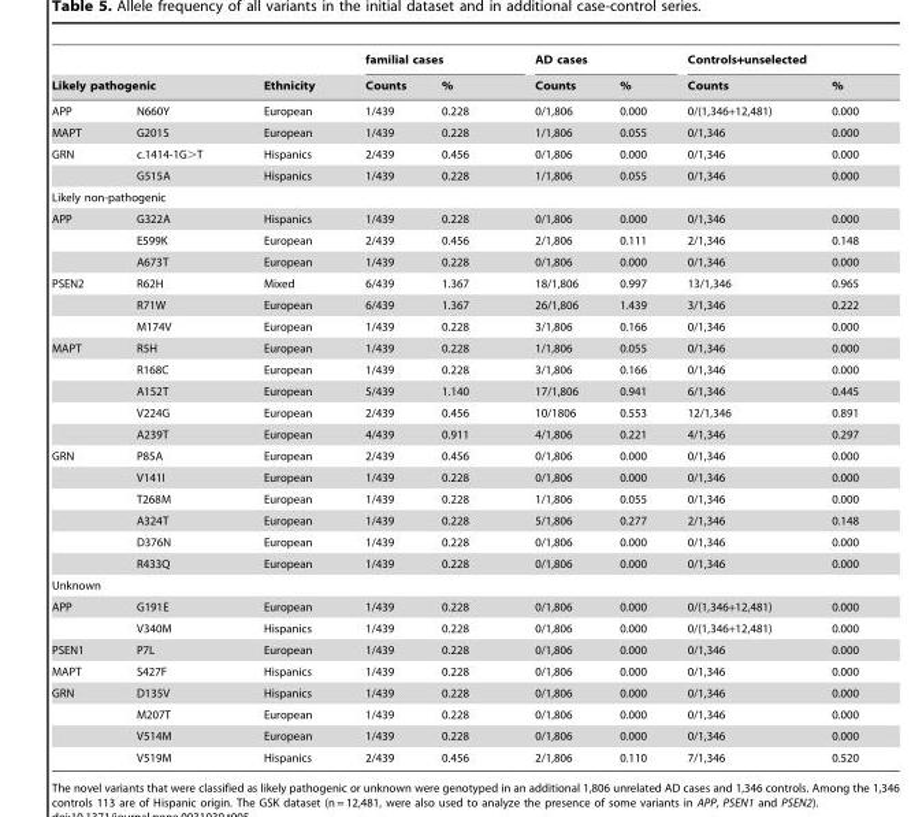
<table><thead><tr><td></td><td></td><td rowspan="2">Ethnicity</td><td colspan="2">familial cases</td><td colspan="2">AD cases</td><td colspan="2">Controls+unselected</td></tr><tr><td colspan="2">Likely pathogenic</td><td>Counts</td><td>%</td><td>Counts</td><td>%</td><td>Counts</td><td>%</td></tr></thead><tbody><tr><td>APP</td><td>N660Y</td><td>European</td><td>1/439</td><td>0.228</td><td>0/1,806</td><td>0.000</td><td>0/(1,346+12,481)</td><td>0.000</td></tr><tr><td>MAPT</td><td>G201S</td><td>European</td><td>1/439</td><td>0.228</td><td>1/1,806</td><td>0.055</td><td>0/1,346</td><td>0.000</td></tr><tr><td rowspan="2">GRN</td><td>c.1414-1G&gt;T</td><td>Hispanics</td><td>2/439</td><td>0.456</td><td>0/1,806</td><td>0.000</td><td>0/1,346</td><td>0.000</td></tr><tr><td>G515A</td><td>Hispanics</td><td>1/439</td><td>0.228</td><td>1/1,806</td><td>0.055</td><td>0/1,346</td><td>0.000</td></tr><tr><td colspan="9">Likely non-pathogenic</td></tr><tr><td rowspan="3">APP</td><td>G322A</td><td>Hispanics</td><td>1/439</td><td>0.228</td><td>0/1,806</td><td>0.000</td><td>0/1,346</td><td>0.000</td></tr><tr><td>E599K</td><td>European</td><td>2/439</td><td>0.456</td><td>2/1,806</td><td>0.111</td><td>2/1,346</td><td>0.148</td></tr><tr><td>A673T</td><td>European</td><td>1/439</td><td>0.228</td><td>0/1,806</td><td>0.000</td><td>0/1,346</td><td>0.000</td></tr><tr><td rowspan="3">PSEN2</td><td>R62H</td><td>Mixed</td><td>6/439</td><td>1.367</td><td>18/1,806</td><td>0.997</td><td>13/1,346</td><td>0.965</td></tr><tr><td>R71W</td><td>European</td><td>6/439</td><td>1.367</td><td>26/1,806</td><td>1.439</td><td>3/1,346</td><td>0.222</td></tr><tr><td>M174V</td><td>European</td><td>1/439</td><td>0.228</td><td>3/1,806</td><td>0.166</td><td>0/1,346</td><td>0.000</td></tr><tr><td rowspan="5">MAPT</td><td>R5H</td><td>European</td><td>1/439</td><td>0.228</td><td>1/1,806</td><td>0.055</td><td>0/1,346</td><td>0.000</td></tr><tr><td>R168C</td><td>European</td><td>1/439</td><td>0.228</td><td>3/1,806</td><td>0.166</td><td>0/1,346</td><td>0.000</td></tr><tr><td>A152T</td><td>European</td><td>5/439</td><td>1.140</td><td>17/1,806</td><td>0.941</td><td>6/1,346</td><td>0.445</td></tr><tr><td>V224G</td><td>European</td><td>2/439</td><td>0.456</td><td>10/1806</td><td>0.553</td><td>12/1,346</td><td>0.891</td></tr><tr><td>A239T</td><td>European</td><td>4/439</td><td>0.911</td><td>4/1,806</td><td>0.221</td><td>4/1,346</td><td>0.297</td></tr><tr><td rowspan="6">GRN</td><td>P85A</td><td>European</td><td>2/439</td><td>0.456</td><td>0/1,806</td><td>0.000</td><td>0/1,346</td><td>0.000</td></tr><tr><td>V141I</td><td>European</td><td>1/439</td><td>0.228</td><td>0/1,806</td><td>0.000</td><td>0/1,346</td><td>0.000</td></tr><tr><td>T268M</td><td>European</td><td>1/439</td><td>0.228</td><td>1/1,806</td><td>0.055</td><td>0/1,346</td><td>0.000</td></tr><tr><td>A324T</td><td>European</td><td>1/439</td><td>0.228</td><td>5/1,806</td><td>0.277</td><td>2/1,346</td><td>0.148</td></tr><tr><td>D376N</td><td>European</td><td>1/439</td><td>0.228</td><td>0/1,806</td><td>0.000</td><td>0/1,346</td><td>0.000</td></tr><tr><td>R433Q</td><td>European</td><td>1/439</td><td>0.228</td><td>0/1,806</td><td>0.000</td><td>0/1,346</td><td>0.000</td></tr><tr><td colspan="9">Unknown</td></tr><tr><td rowspan="2">APP</td><td>G191E</td><td>European</td><td>1/439</td><td>0.228</td><td>0/1,806</td><td>0.000</td><td>0/(1,346+12,481)</td><td>0.000</td></tr><tr><td>V340M</td><td>Hispanics</td><td>1/439</td><td>0.228</td><td>0/1,806</td><td>0.000</td><td>0/(1,346+12,481)</td><td>0.000</td></tr><tr><td>PSEN1</td><td>P7L</td><td>European</td><td>1/439</td><td>0.228</td><td>0/1,806</td><td>0.000</td><td>0/1,346</td><td>0.000</td></tr><tr><td>MAPT</td><td>S427F</td><td>Hispanics</td><td>1/439</td><td>0.228</td><td>0/1,806</td><td>0.000</td><td>0/1,346</td><td>0.000</td></tr><tr><td rowspan="4">GRN</td><td>D135V</td><td>Hispanics</td><td>1/439</td><td>0.228</td><td>0/1,806</td><td>0.000</td><td>0/1,346</td><td>0.000</td></tr><tr><td>M207T</td><td>European</td><td>1/439</td><td>0.228</td><td>0/1,806</td><td>0.000</td><td>0/1,346</td><td>0.000</td></tr><tr><td>V514M</td><td>European</td><td>1/439</td><td>0.228</td><td>0/1,806</td><td>0.000</td><td>0/1,346</td><td>0.000</td></tr><tr><td>V519M</td><td>Hispanics</td><td>2/439</td><td>0.456</td><td>2/1,806</td><td>0.110</td><td>7/1,346</td><td>0.520</td></tr></tbody></table>